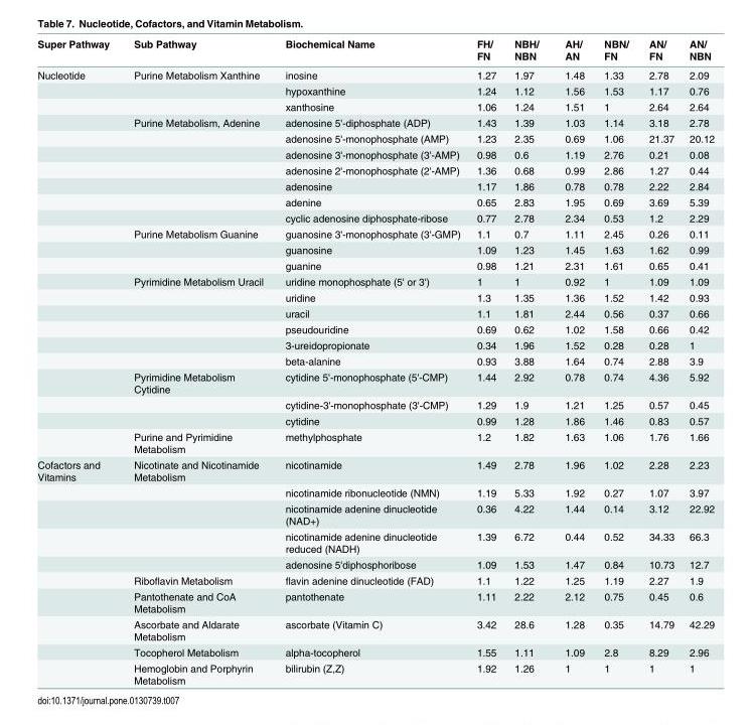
<table><thead><tr><td>Super Pathway</td><td>Sub Pathway</td><td>Biochemical Name</td><td>FH/ FN</td><td>NBH/ NBN</td><td>AH/ AN</td><td>NBN/ FN</td><td>AN/ FN</td><td>AN/ NBN</td></tr></thead><tbody><tr><td rowspan="23">Nucleotide</td><td>Purine Metabolism Xanthine</td><td>inosine</td><td>1.27</td><td>1.97</td><td>1.48</td><td>1.33</td><td>2.78</td><td>2.09</td></tr><tr><td></td><td>hypoxanthine</td><td>1.24</td><td>1.12</td><td>1.56</td><td>1.53</td><td>1.17</td><td>0.76</td></tr><tr><td></td><td>xanthosine</td><td>1.06</td><td>1.24</td><td>1.51</td><td>1</td><td>2.64</td><td>2.64</td></tr><tr><td>Purine Metabolism, Adenine</td><td>adenosine 5&#x27;-diphosphate (ADP)</td><td>1.43</td><td>1.39</td><td>1.03</td><td>1.14</td><td>3.18</td><td>2.78</td></tr><tr><td></td><td>adenosine 5&#x27;-monophosphate (AMP)</td><td>1.23</td><td>2.35</td><td>0.69</td><td>1.06</td><td>21.37</td><td>20.12</td></tr><tr><td></td><td>adenosine 3&#x27;-monophosphate (3&#x27;-AMP)</td><td>0.98</td><td>0.6</td><td>1.19</td><td>2.76</td><td>0.21</td><td>0.08</td></tr><tr><td></td><td>adenosine 2&#x27;-monophosphate (2&#x27;-AMP)</td><td>1.36</td><td>0.68</td><td>0.99</td><td>2.86</td><td>1.27</td><td>0.44</td></tr><tr><td></td><td>adenosine</td><td>1.17</td><td>1.86</td><td>0.78</td><td>0.78</td><td>2.22</td><td>2.84</td></tr><tr><td></td><td>adenine</td><td>0.65</td><td>2.83</td><td>1.95</td><td>0.69</td><td>3.69</td><td>5.39</td></tr><tr><td></td><td>cyclic adenosine diphosphate-ribose</td><td>0.77</td><td>2.78</td><td>2.34</td><td>0.53</td><td>1.2</td><td>2.29</td></tr><tr><td>Purine Metabolism Guanine</td><td>guanosine 3&#x27;-monophosphate (3&#x27;-GMP)</td><td>1.1</td><td>0.7</td><td>1.11</td><td>2.45</td><td>0.26</td><td>0.11</td></tr><tr><td></td><td>guanosine</td><td>1.09</td><td>1.23</td><td>1.45</td><td>1.63</td><td>1.62</td><td>0.99</td></tr><tr><td></td><td>guanine</td><td>0.98</td><td>1.21</td><td>2.31</td><td>1.61</td><td>0.65</td><td>0.41</td></tr><tr><td>Pyrimidine Metabolism Uracil</td><td>uridine monophosphate (5&#x27; or 3&#x27;)</td><td>1</td><td>1</td><td>0.92</td><td>1</td><td>1.09</td><td>1.09</td></tr><tr><td></td><td>uridine</td><td>1.3</td><td>1.35</td><td>1.36</td><td>1.52</td><td>1.42</td><td>0.93</td></tr><tr><td></td><td>uracil</td><td>1.1</td><td>1.81</td><td>2.44</td><td>0.56</td><td>0.37</td><td>0.66</td></tr><tr><td></td><td>pseudouridine</td><td>0.69</td><td>0.62</td><td>1.02</td><td>1.58</td><td>0.66</td><td>0.42</td></tr><tr><td></td><td>3-ureidopropionate</td><td>0.34</td><td>1.96</td><td>1.52</td><td>0.28</td><td>0.28</td><td>1</td></tr><tr><td></td><td>beta-alanine</td><td>0.93</td><td>3.88</td><td>1.64</td><td>0.74</td><td>2.88</td><td>3.9</td></tr><tr><td>Pyrimidine Metabolism Cytidine</td><td>cytidine 5&#x27;-monophosphate (5&#x27;-CMP)</td><td>1.44</td><td>2.92</td><td>0.78</td><td>0.74</td><td>4.36</td><td>5.92</td></tr><tr><td></td><td>cytidine-3&#x27;-monophosphate (3&#x27;-CMP)</td><td>1.29</td><td>1.9</td><td>1.21</td><td>1.25</td><td>0.57</td><td>0.45</td></tr><tr><td></td><td>cytidine</td><td>0.99</td><td>1.28</td><td>1.86</td><td>1.46</td><td>0.83</td><td>0.57</td></tr><tr><td>Purine and Pyrimidine Metabolism</td><td>methylphosphate</td><td>1.2</td><td>1.82</td><td>1.63</td><td>1.06</td><td>1.76</td><td>1.66</td></tr><tr><td rowspan="10">Cofactors and Vitamins</td><td>Nicotinate and Nicotinamide Metabolism</td><td>nicotinamide</td><td>1.49</td><td>2.78</td><td>1.96</td><td>1.02</td><td>2.28</td><td>2.23</td></tr><tr><td></td><td>nicotinamide ribonucleotide (NMN)</td><td>1.19</td><td>5.33</td><td>1.92</td><td>0.27</td><td>1.07</td><td>3.97</td></tr><tr><td></td><td>nicotinamide adenine dinucleotide (NAD+)</td><td>0.36</td><td>4.22</td><td>1.44</td><td>0.14</td><td>3.12</td><td>22.92</td></tr><tr><td></td><td>nicotinamide adenine dinucleotide reduced (NADH)</td><td>1.39</td><td>6.72</td><td>0.44</td><td>0.52</td><td>34.33</td><td>66.3</td></tr><tr><td></td><td>adenosine 5&#x27;diphosphoribose</td><td>1.09</td><td>1.53</td><td>1.47</td><td>0.84</td><td>10.73</td><td>12.7</td></tr><tr><td>Riboflavin Metabolism</td><td>flavin adenine dinucleotide (FAD)</td><td>1.1</td><td>1.22</td><td>1.25</td><td>1.19</td><td>2.27</td><td>1.9</td></tr><tr><td>Pantothenate and CoA Metabolism</td><td>pantothenate</td><td>1.11</td><td>2.22</td><td>2.12</td><td>0.75</td><td>0.45</td><td>0.6</td></tr><tr><td>Ascorbate and Aldarate Metabolism</td><td>ascorbate (Vitamin C)</td><td>3.42</td><td>28.6</td><td>1.28</td><td>0.35</td><td>14.79</td><td>42.29</td></tr><tr><td>Tocopherol Metabolism</td><td>alpha-tocopherol</td><td>1.55</td><td>1.11</td><td>1.09</td><td>2.8</td><td>8.29</td><td>2.96</td></tr><tr><td>Hemoglobin and Porphyrin Metabolism</td><td>bilirubin (Z,Z)</td><td>1.92</td><td>1.26</td><td>1</td><td>1</td><td>1</td><td>1</td></tr></tbody></table>